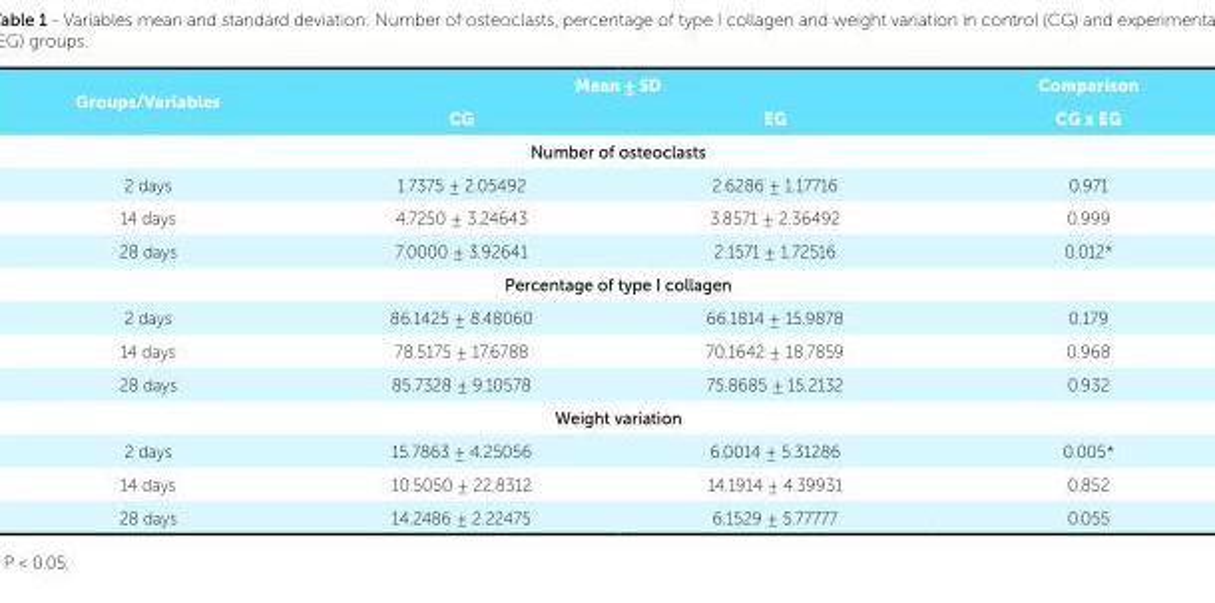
<table><thead><tr><td rowspan="2">Groups/Variables</td><td colspan="2">Mean ± SD</td><td rowspan="2">Comparison CG x EG</td></tr><tr><td>CG</td><td>EG</td></tr></thead><tbody><tr><td colspan="4">Number of osteoclasts</td></tr><tr><td>2 days</td><td>1.7375 ± 2.05492</td><td>2.6286 ± 1.17716</td><td>0.971</td></tr><tr><td>14 days</td><td>4.7250 ± 3.24643</td><td>3.8571 ± 2.36492</td><td>0.999</td></tr><tr><td>28 days</td><td>7.0000 ± 3.92641</td><td>2.1571 ± 1.72516</td><td>0.012*</td></tr><tr><td colspan="4">Percentage of type I collagen</td></tr><tr><td>2 days</td><td>86.1425 ± 8.48060</td><td>66.1814 ± 15.9878</td><td>0.179</td></tr><tr><td>14 days</td><td>78.5175 ± 17.6788</td><td>70.1642 ± 18.7859</td><td>0.968</td></tr><tr><td>28 days</td><td>85.7328 ± 9.10578</td><td>75.8685 ± 15.2132</td><td>0.932</td></tr><tr><td colspan="4">Weight variation</td></tr><tr><td>2 days</td><td>15.7863 ± 4.25056</td><td>6.0014 ± 5.31286</td><td>0.005*</td></tr><tr><td>14 days</td><td>10.5050 ± 22.8312</td><td>14.1914 ± 4.39931</td><td>0.852</td></tr><tr><td>28 days</td><td>14.2486 ± 2.22475</td><td>6.1529 ± 5.77777</td><td>0.055</td></tr></tbody></table>